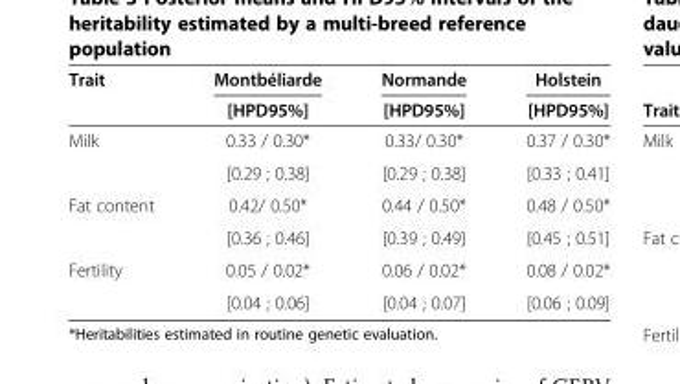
<table><thead><tr><td rowspan="2">Trait</td><td rowspan="2">Montbéliarde [HPD95%]</td><td rowspan="2">Normande [HPD95%]</td><td rowspan="2">Holstein [HPD95%]</td></tr><tr></tr></thead><tbody><tr><td rowspan="2">Milk</td><td>0.33 / 0.30*</td><td>0.33/ 0.30*</td><td>0.37 / 0.30*</td></tr><tr><td>[0.29 ; 0.38]</td><td>[0.29 ; 0.38]</td><td>[0.33 ; 0.41]</td></tr><tr><td rowspan="2">Fat content</td><td>0.42/ 0.50*</td><td>0.44 / 0.50*</td><td>0.48 / 0.50*</td></tr><tr><td>[0.36 ; 0.46]</td><td>[0.39 ; 0.49]</td><td>[0.45 ; 0.51]</td></tr><tr><td rowspan="2">Fertility</td><td>0.05 / 0.02*</td><td>0.06 / 0.02*</td><td>0.08 / 0.02*</td></tr><tr><td>[0.04 ; 0.06]</td><td>[0.04 ; 0.07]</td><td>[0.06 ; 0.09]</td></tr></tbody></table>